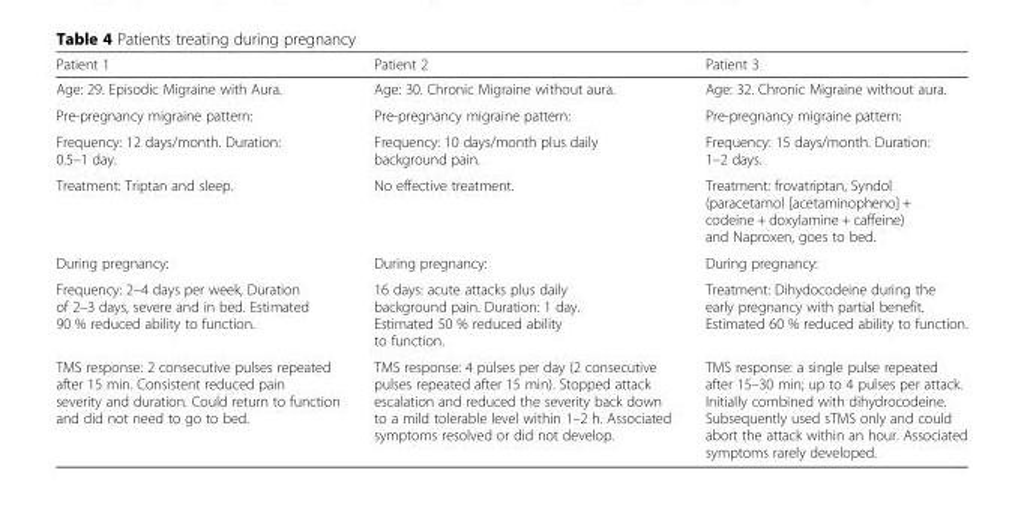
<table><thead><tr><td>Patient 1</td><td>Patient 2</td><td>Patient 3</td></tr></thead><tbody><tr><td>Age: 29. Episodic Migraine with Aura.</td><td>Age: 30. Chronic Migraine without aura.</td><td>Age: 32. Chronic Migraine without aura.</td></tr><tr><td>Pre-pregnancy migraine pattern:</td><td>Pre-pregnancy migraine pattern:</td><td>Pre-pregnancy migraine pattern:</td></tr><tr><td>Frequency: 12 days/month. Duration: 0.5–1 day.</td><td>Frequency: 10 days/month plus daily background pain.</td><td>Frequency: 15 days/month. Duration: 1–2 days.</td></tr><tr><td>Treatment: Triptan and sleep.</td><td>No effective treatment.</td><td>Treatment: frovatriptan, Syndol (paracetamol [acetaminopheno] + codeine + doxylamine + caffeine) and Naproxen, goes to bed.</td></tr><tr><td>During pregnancy:</td><td>During pregnancy:</td><td>During pregnancy:</td></tr><tr><td>Frequency: 2–4 days per week, Duration of 2–3 days, severe and in bed. Estimated 90 % reduced ability to function.</td><td>16 days: acute attacks plus daily background pain. Duration: 1 day. Estimated 50 % reduced ability to function.</td><td>Treatment: Dihydocodeine during the early pregnancy with partial benefit. Estimated 60 % reduced ability to function.</td></tr><tr><td>TMS response: 2 consecutive pulses repeated after 15 min. Consistent reduced pain severity and duration. Could return to function and did not need to go to bed.</td><td>TMS response: 4 pulses per day (2 consecutive pulses repeated after 15 min). Stopped attack escalation and reduced the severity back down to a mild tolerable level within 1–2 h. Associated symptoms resolved or did not develop.</td><td>TMS response: a single pulse repeated after 15–30 min; up to 4 pulses per attack. Initially combined with dihydrocodeine. Subsequently used sTMS only and could abort the attack within an hour. Associated symptoms rarely developed.</td></tr></tbody></table>